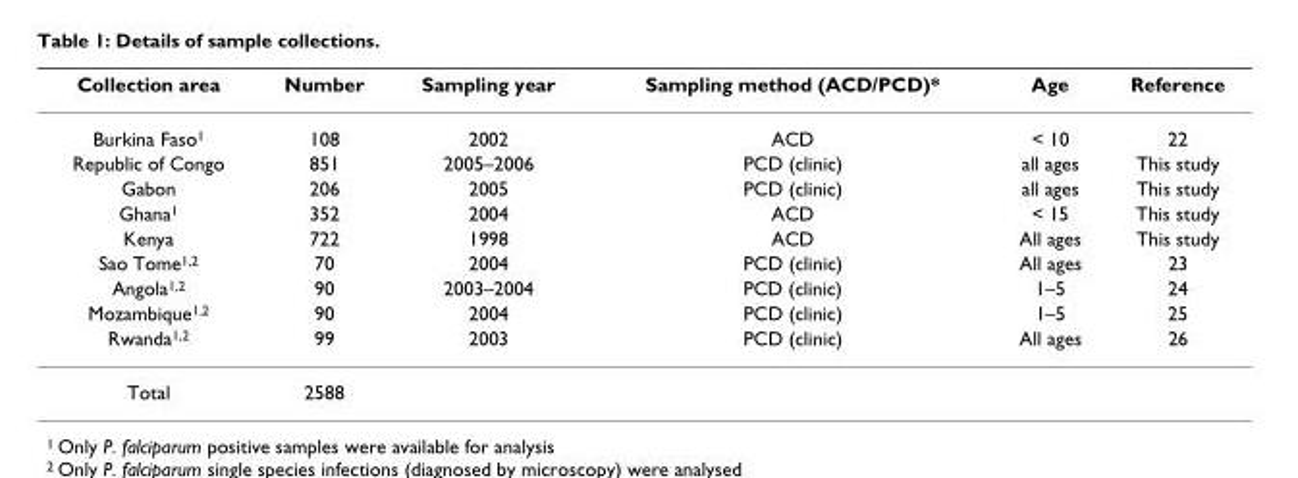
<table><thead><tr><td>Collection area</td><td>Number</td><td>Sampling year</td><td>Sampling method (ACD/PCD)*</td><td>Age</td><td>Reference</td></tr></thead><tbody><tr><td>Burkina Faso<sup>1</sup></td><td>108</td><td>2002</td><td>ACD</td><td>&lt; 10</td><td>22</td></tr><tr><td>Republic of Congo</td><td>851</td><td>2005–2006</td><td>PCD (clinic)</td><td>all ages</td><td>This study</td></tr><tr><td>Gabon</td><td>206</td><td>2005</td><td>PCD (clinic)</td><td>all ages</td><td>This study</td></tr><tr><td>Ghana<sup>1</sup></td><td>352</td><td>2004</td><td>ACD</td><td>&lt; 15</td><td>This study</td></tr><tr><td>Kenya</td><td>722</td><td>1998</td><td>ACD</td><td>All ages</td><td>This study</td></tr><tr><td>Sao Tome<sup>1,2</sup></td><td>70</td><td>2004</td><td>PCD (clinic)</td><td>All ages</td><td>23</td></tr><tr><td>Angola<sup>1,2</sup></td><td>90</td><td>2003–2004</td><td>PCD (clinic)</td><td>1–5</td><td>24</td></tr><tr><td>Mozambique<sup>1,2</sup></td><td>90</td><td>2004</td><td>PCD (clinic)</td><td>1–5</td><td>25</td></tr><tr><td>Rwanda<sup>1,2</sup></td><td>99</td><td>2003</td><td>PCD (clinic)</td><td>All ages</td><td>26</td></tr><tr><td>Total</td><td>2588</td><td></td><td></td><td></td><td></td></tr></tbody></table>